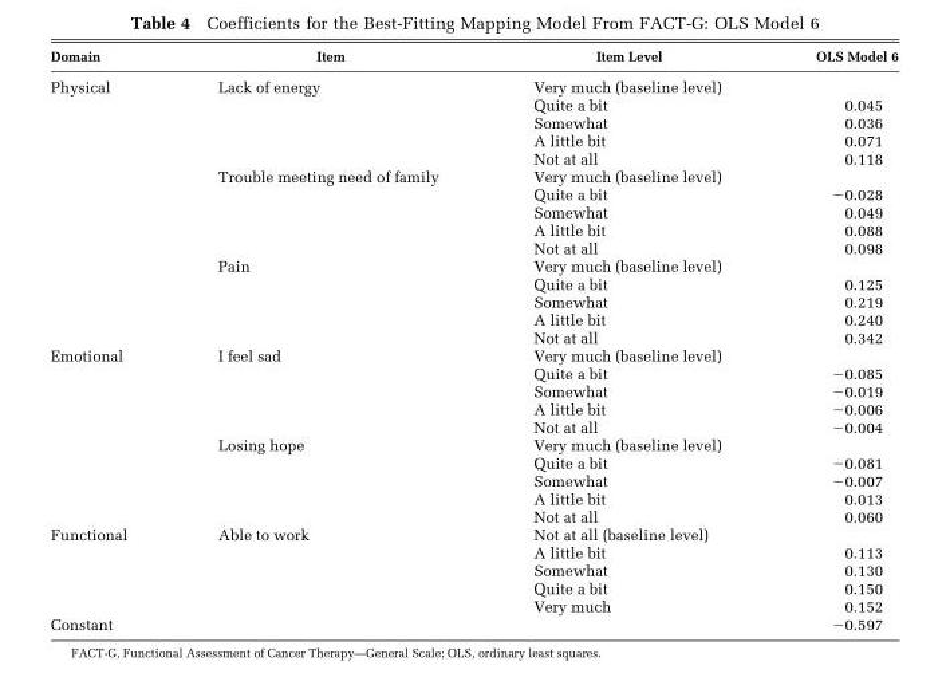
<table><thead><tr><td>Domain</td><td>Item</td><td>Item Level</td><td>OLS Model 6</td></tr></thead><tbody><tr><td rowspan="15">Physical</td><td rowspan="5">Lack of energy</td><td>Very much (baseline level)</td><td></td></tr><tr><td>Quite a bit</td><td>0.045</td></tr><tr><td>Somewhat</td><td>0.036</td></tr><tr><td>A little bit</td><td>0.071</td></tr><tr><td>Not at all</td><td>0.118</td></tr><tr><td rowspan="5">Trouble meeting need of family</td><td>Very much (baseline level)</td><td></td></tr><tr><td>Quite a bit</td><td>−0.028</td></tr><tr><td>Somewhat</td><td>0.049</td></tr><tr><td>A little bit</td><td>0.088</td></tr><tr><td>Not at all</td><td>0.098</td></tr><tr><td rowspan="5">Pain</td><td>Very much (baseline level)</td><td></td></tr><tr><td>Quite a bit</td><td>0.125</td></tr><tr><td>Somewhat</td><td>0.219</td></tr><tr><td>A little bit</td><td>0.240</td></tr><tr><td>Not at all</td><td>0.342</td></tr><tr><td rowspan="10">Emotional</td><td rowspan="5">I feel sad</td><td>Very much (baseline level)</td><td></td></tr><tr><td>Quite a bit</td><td>−0.085</td></tr><tr><td>Somewhat</td><td>−0.019</td></tr><tr><td>A little bit</td><td>−0.006</td></tr><tr><td>Not at all</td><td>−0.004</td></tr><tr><td rowspan="5">Losing hope</td><td>Very much (baseline level)</td><td></td></tr><tr><td>Quite a bit</td><td>−0.081</td></tr><tr><td>Somewhat</td><td>−0.007</td></tr><tr><td>A little bit</td><td>0.013</td></tr><tr><td>Not at all</td><td>0.060</td></tr><tr><td rowspan="5">Functional</td><td rowspan="5">Able to work</td><td>Not at all (baseline level)</td><td></td></tr><tr><td>A little bit</td><td>0.113</td></tr><tr><td>Somewhat</td><td>0.130</td></tr><tr><td>Quite a bit</td><td>0.150</td></tr><tr><td>Very much</td><td>0.152</td></tr><tr><td>Constant</td><td></td><td></td><td>−0.597</td></tr></tbody></table>